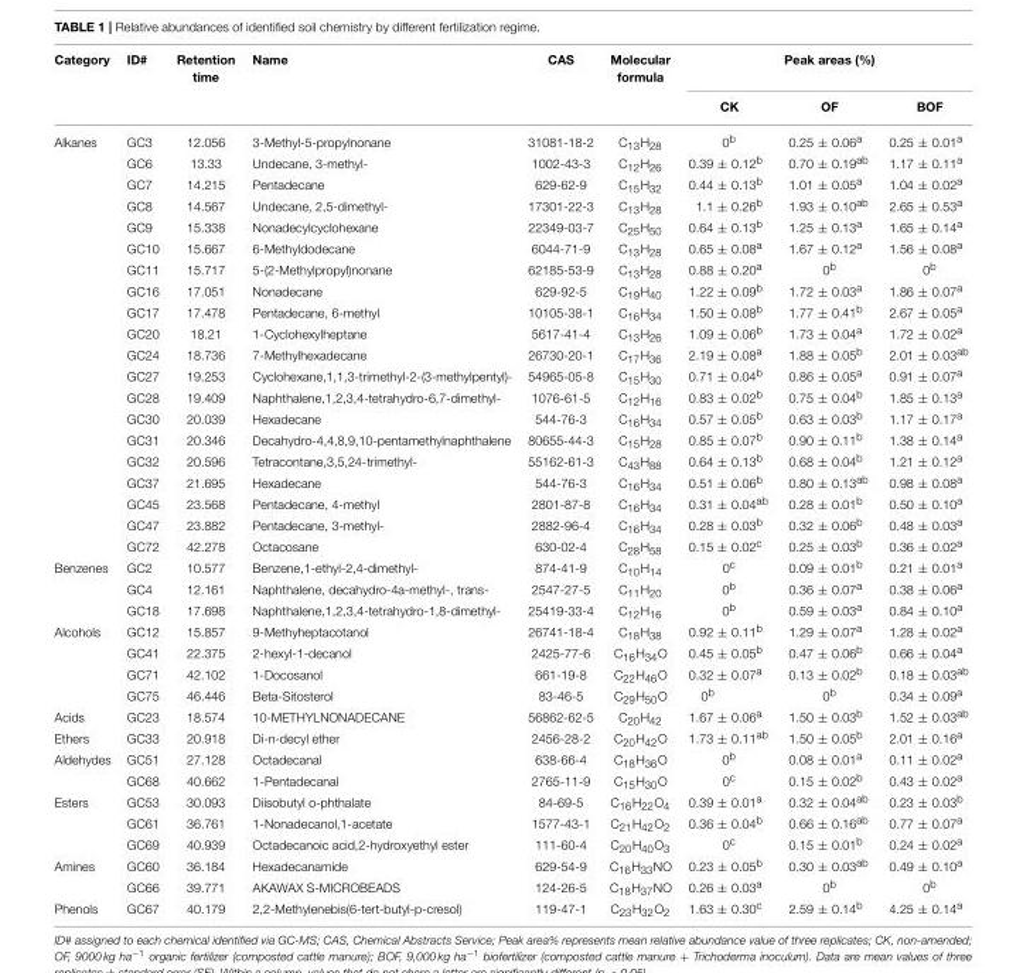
<table><thead><tr><td rowspan="2">Category</td><td rowspan="2">ID#</td><td rowspan="2">Retention time</td><td rowspan="2">Name</td><td rowspan="2">CAS</td><td rowspan="2">Molecular formula</td><td colspan="3">Peak areas (%)</td></tr><tr><td>CK</td><td>OF</td><td>BOF</td></tr></thead><tbody><tr><td rowspan="20">Alkanes</td><td>GC3</td><td>12.056</td><td>3-Methyl-5-propylnonane</td><td>31081-18-2</td><td>C<sub>13</sub>H<sub>28</sub></td><td>0<sup>b</sup></td><td>0.25 ± 0.06<sup>a</sup></td><td>0.25 ± 0.01<sup>a</sup></td></tr><tr><td>GC6</td><td>13.33</td><td>Undecane, 3-methyl-</td><td>1002-43-3</td><td>C<sub>12</sub>H<sub>26</sub></td><td>0.39 ± 0.12<sup>b</sup></td><td>0.70 ± 0.19<sup>ab</sup></td><td>1.17 ± 0.11<sup>a</sup></td></tr><tr><td>GC7</td><td>14.215</td><td>Pentadecane</td><td>629-62-9</td><td>C<sub>15</sub>H<sub>32</sub></td><td>0.44 ± 0.13<sup>b</sup></td><td>1.01 ± 0.05<sup>a</sup></td><td>1.04 ± 0.02<sup>a</sup></td></tr><tr><td>GC8</td><td>14.567</td><td>Undecane, 2,5-dimethyl-</td><td>17301-22-3</td><td>C<sub>13</sub>H<sub>28</sub></td><td>1.1 ± 0.26<sup>b</sup></td><td>1.93 ± 0.10<sup>ab</sup></td><td>2.65 ± 0.53<sup>a</sup></td></tr><tr><td>GC9</td><td>15.338</td><td>Nonadecylcyclohexane</td><td>22349-03-7</td><td>C<sub>25</sub>H<sub>50</sub></td><td>0.64 ± 0.13<sup>b</sup></td><td>1.25 ± 0.13<sup>a</sup></td><td>1.65 ± 0.14<sup>a</sup></td></tr><tr><td>GC10</td><td>15.667</td><td>6-Methyldodecane</td><td>6044-71-9</td><td>C<sub>13</sub>H<sub>28</sub></td><td>0.65 ± 0.08<sup>a</sup></td><td>1.67 ± 0.12<sup>a</sup></td><td>1.56 ± 0.08<sup>a</sup></td></tr><tr><td>GC11</td><td>15.717</td><td>5-(2-Methylpropyl)nonane</td><td>62185-53-9</td><td>C<sub>13</sub>H<sub>28</sub></td><td>0.88 ± 0.20<sup>a</sup></td><td>0<sup>b</sup></td><td>0<sup>b</sup></td></tr><tr><td>GC16</td><td>17.051</td><td>Nonadecane</td><td>629-92-5</td><td>C<sub>19</sub>H<sub>40</sub></td><td>1.22 ± 0.09<sup>b</sup></td><td>1.72 ± 0.03<sup>a</sup></td><td>1.86 ± 0.07<sup>a</sup></td></tr><tr><td>GC17</td><td>17.478</td><td>Pentadecane, 6-methyl</td><td>10105-38-1</td><td>C<sub>16</sub>H<sub>34</sub></td><td>1.50 ± 0.08<sup>b</sup></td><td>1.77 ± 0.41<sup>b</sup></td><td>2.67 ± 0.05<sup>a</sup></td></tr><tr><td>GC20</td><td>18.21</td><td>1-Cyclohexylheptane</td><td>5617-41-4</td><td>C<sub>13</sub>H<sub>26</sub></td><td>1.09 ± 0.06<sup>b</sup></td><td>1.73 ± 0.04<sup>a</sup></td><td>1.72 ± 0.02<sup>a</sup></td></tr><tr><td>GC24</td><td>18.736</td><td>7-Methylhexadecane</td><td>26730-20-1</td><td>C<sub>17</sub>H<sub>36</sub></td><td>2.19 ± 0.08<sup>a</sup></td><td>1.88 ± 0.05<sup>b</sup></td><td>2.01 ± 0.03<sup>ab</sup></td></tr><tr><td>GC27</td><td>19.253</td><td>Cyclohexane,1,1,3-trimethyl-2-(3-methylpentyl)-</td><td>54965-05-8</td><td>C<sub>15</sub>H<sub>30</sub></td><td>0.71 ± 0.04<sup>b</sup></td><td>0.86 ± 0.05<sup>a</sup></td><td>0.91 ± 0.07<sup>a</sup></td></tr><tr><td>GC28</td><td>19.409</td><td>Naphthalene,1,2,3,4-tetrahydro-6,7-dimethyl-</td><td>1076-61-5</td><td>C<sub>12</sub>H<sub>16</sub></td><td>0.83 ± 0.02<sup>b</sup></td><td>0.75 ± 0.04<sup>b</sup></td><td>1.85 ± 0.13<sup>a</sup></td></tr><tr><td>GC30</td><td>20.039</td><td>Hexadecane</td><td>544-76-3</td><td>C<sub>16</sub>H<sub>34</sub></td><td>0.57 ± 0.05<sup>b</sup></td><td>0.63 ± 0.03<sup>b</sup></td><td>1.17 ± 0.17<sup>a</sup></td></tr><tr><td>GC31</td><td>20.346</td><td>Decahydro-4,4,8,9,10-pentamethylnaphthalene</td><td>80655-44-3</td><td>C<sub>15</sub>H<sub>28</sub></td><td>0.85 ± 0.07<sup>b</sup></td><td>0.90 ± 0.11<sup>b</sup></td><td>1.38 ± 0.14<sup>a</sup></td></tr><tr><td>GC32</td><td>20.596</td><td>Tetracontane,3,5,24-trimethyl-</td><td>55162-61-3</td><td>C<sub>43</sub>H<sub>88</sub></td><td>0.64 ± 0.13<sup>b</sup></td><td>0.68 ± 0.04<sup>b</sup></td><td>1.21 ± 0.12<sup>a</sup></td></tr><tr><td>GC37</td><td>21.695</td><td>Hexadecane</td><td>544-76-3</td><td>C<sub>16</sub>H<sub>34</sub></td><td>0.51 ± 0.06<sup>b</sup></td><td>0.80 ± 0.13<sup>ab</sup></td><td>0.98 ± 0.08<sup>a</sup></td></tr><tr><td>GC45</td><td>23.568</td><td>Pentadecane, 4-methyl</td><td>2801-87-8</td><td>C<sub>16</sub>H<sub>34</sub></td><td>0.31 ± 0.04<sup>ab</sup></td><td>0.28 ± 0.01<sup>b</sup></td><td>0.50 ± 0.10<sup>a</sup></td></tr><tr><td>GC47</td><td>23.882</td><td>Pentadecane, 3-methyl-</td><td>2882-96-4</td><td>C<sub>16</sub>H<sub>34</sub></td><td>0.28 ± 0.03<sup>b</sup></td><td>0.32 ± 0.06<sup>b</sup></td><td>0.48 ± 0.03<sup>a</sup></td></tr><tr><td>GC72</td><td>42.278</td><td>Octacosane</td><td>630-02-4</td><td>C<sub>28</sub>H<sub>58</sub></td><td>0.15 ± 0.02<sup>c</sup></td><td>0.25 ± 0.03<sup>b</sup></td><td>0.36 ± 0.02<sup>a</sup></td></tr><tr><td rowspan="3">Benzenes</td><td>GC2</td><td>10.577</td><td>Benzene,1-ethyl-2,4-dimethyl-</td><td>874-41-9</td><td>C<sub>10</sub>H<sub>14</sub></td><td>0<sup>c</sup></td><td>0.09 ± 0.01<sup>b</sup></td><td>0.21 ± 0.01<sup>a</sup></td></tr><tr><td>GC4</td><td>12.161</td><td>Naphthalene, decahydro-4a-methyl-, trans-</td><td>2547-27-5</td><td>C<sub>11</sub>H<sub>20</sub></td><td>0<sup>b</sup></td><td>0.36 ± 0.07<sup>a</sup></td><td>0.38 ± 0.06<sup>a</sup></td></tr><tr><td>GC18</td><td>17.698</td><td>Naphthalene,1,2,3,4-tetrahydro-1,8-dimethyl-</td><td>25419-33-4</td><td>C<sub>12</sub>H<sub>16</sub></td><td>0<sup>b</sup></td><td>0.59 ± 0.03<sup>a</sup></td><td>0.84 ± 0.10<sup>a</sup></td></tr><tr><td rowspan="4">Alcohols</td><td>GC12</td><td>15.857</td><td>9-Methyheptacotanol</td><td>26741-18-4</td><td>C<sub>18</sub>H<sub>38</sub></td><td>0.92 ± 0.11<sup>b</sup></td><td>1.29 ± 0.07<sup>a</sup></td><td>1.28 ± 0.02<sup>a</sup></td></tr><tr><td>GC41</td><td>22.375</td><td>2-hexyl-1-decanol</td><td>2425-77-6</td><td>C<sub>16</sub>H<sub>34</sub>O</td><td>0.45 ± 0.05<sup>b</sup></td><td>0.47 ± 0.06<sup>b</sup></td><td>0.66 ± 0.04<sup>a</sup></td></tr><tr><td>GC71</td><td>42.102</td><td>1-Docosanol</td><td>661-19-8</td><td>C<sub>22</sub>H<sub>46</sub>O</td><td>0.32 ± 0.07<sup>a</sup></td><td>0.13 ± 0.02<sup>b</sup></td><td>0.18 ± 0.03<sup>ab</sup></td></tr><tr><td>GC75</td><td>46.446</td><td>Beta-Sitosterol</td><td>83-46-5</td><td>C<sub>29</sub>H<sub>50</sub>O</td><td>0<sup>b</sup></td><td>0<sup>b</sup></td><td>0.34 ± 0.09<sup>a</sup></td></tr><tr><td>Acids</td><td>GC23</td><td>18.574</td><td>10-METHYLNONADECANE</td><td>56862-62-5</td><td>C<sub>20</sub>H<sub>42</sub></td><td>1.67 ± 0.06<sup>a</sup></td><td>1.50 ± 0.03<sup>b</sup></td><td>1.52 ± 0.03<sup>ab</sup></td></tr><tr><td>Ethers</td><td>GC33</td><td>20.918</td><td>Di-n-decyl ether</td><td>2456-28-2</td><td>C<sub>20</sub>H<sub>42</sub>O</td><td>1.73 ± 0.11<sup>ab</sup></td><td>1.50 ± 0.05<sup>b</sup></td><td>2.01 ± 0.16<sup>a</sup></td></tr><tr><td rowspan="2">Aldehydes</td><td>GC51</td><td>27.128</td><td>Octadecanal</td><td>638-66-4</td><td>C<sub>18</sub>H<sub>36</sub>O</td><td>0<sup>b</sup></td><td>0.08 ± 0.01<sup>a</sup></td><td>0.11 ± 0.02<sup>a</sup></td></tr><tr><td>GC68</td><td>40.662</td><td>1-Pentadecanal</td><td>2765-11-9</td><td>C<sub>15</sub>H<sub>30</sub>O</td><td>0<sup>c</sup></td><td>0.15 ± 0.02<sup>b</sup></td><td>0.43 ± 0.02<sup>a</sup></td></tr><tr><td rowspan="3">Esters</td><td>GC53</td><td>30.093</td><td>Diisobutyl o-phthalate</td><td>84-69-5</td><td>C<sub>16</sub>H<sub>22</sub>O<sub>4</sub></td><td>0.39 ± 0.01<sup>a</sup></td><td>0.32 ± 0.04<sup>ab</sup></td><td>0.23 ± 0.03<sup>b</sup></td></tr><tr><td>GC61</td><td>36.761</td><td>1-Nonadecanol,1-acetate</td><td>1577-43-1</td><td>C<sub>21</sub>H<sub>42</sub>O<sub>2</sub></td><td>0.36 ± 0.04<sup>b</sup></td><td>0.66 ± 0.16<sup>ab</sup></td><td>0.77 ± 0.07<sup>a</sup></td></tr><tr><td>GC69</td><td>40.939</td><td>Octadecanoic acid,2-hydroxyethyl ester</td><td>111-60-4</td><td>C<sub>20</sub>H<sub>40</sub>O<sub>3</sub></td><td>0<sup>c</sup></td><td>0.15 ± 0.01<sup>b</sup></td><td>0.24 ± 0.02<sup>a</sup></td></tr><tr><td rowspan="2">Amines</td><td>GC60</td><td>36.184</td><td>Hexadecanamide</td><td>629-54-9</td><td>C<sub>16</sub>H<sub>33</sub>NO</td><td>0.23 ± 0.05<sup>b</sup></td><td>0.30 ± 0.03<sup>ab</sup></td><td>0.49 ± 0.10<sup>a</sup></td></tr><tr><td>GC66</td><td>39.771</td><td>AKAWAX S-MICROBEADS</td><td>124-26-5</td><td>C<sub>18</sub>H<sub>37</sub>NO</td><td>0.26 ± 0.03<sup>a</sup></td><td>0<sup>b</sup></td><td>0<sup>b</sup></td></tr><tr><td>Phenols</td><td>GC67</td><td>40.179</td><td>2,2-Methylenebis(6-tert-butyl-p-cresol)</td><td>119-47-1</td><td>C<sub>23</sub>H<sub>32</sub>O<sub>2</sub></td><td>1.63 ± 0.30<sup>c</sup></td><td>2.59 ± 0.14<sup>b</sup></td><td>4.25 ± 0.14<sup>a</sup></td></tr></tbody></table>